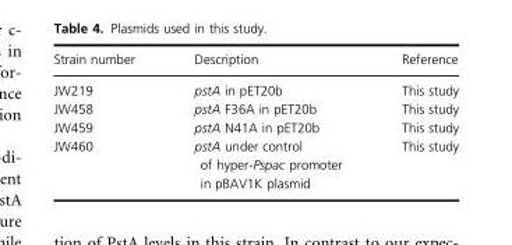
<table><thead><tr><td>Strain number</td><td>Description</td><td>Reference</td></tr></thead><tbody><tr><td>JW219</td><td>pstA in pET20b</td><td>This study</td></tr><tr><td>JW458</td><td>pstA F36A in pET20b</td><td>This study</td></tr><tr><td>JW459</td><td>pstA N41A in pET20b</td><td>This study</td></tr><tr><td>JW460</td><td>pstA under control of hyper-Pspac promoter in pBAV1K plasmid</td><td>This study</td></tr></tbody></table>